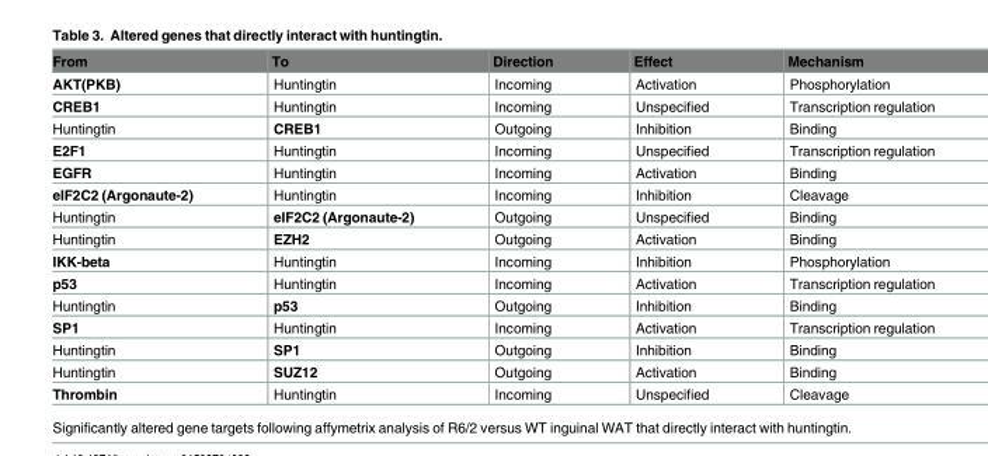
<table><thead><tr><td>From</td><td>To</td><td>Direction</td><td>Effect</td><td>Mechanism</td></tr></thead><tbody><tr><td>AKT(PKB)</td><td>Huntingtin</td><td>Incoming</td><td>Activation</td><td>Phosphorylation</td></tr><tr><td>CREB1</td><td>Huntingtin</td><td>Incoming</td><td>Unspecified</td><td>Transcription regulation</td></tr><tr><td>Huntingtin</td><td>CREB1</td><td>Outgoing</td><td>Inhibition</td><td>Binding</td></tr><tr><td>E2F1</td><td>Huntingtin</td><td>Incoming</td><td>Unspecified</td><td>Transcription regulation</td></tr><tr><td>EGFR</td><td>Huntingtin</td><td>Incoming</td><td>Activation</td><td>Binding</td></tr><tr><td>eIF2C2 (Argonaute-2)</td><td>Huntingtin</td><td>Incoming</td><td>Inhibition</td><td>Cleavage</td></tr><tr><td>Huntingtin</td><td>eIF2C2 (Argonaute-2)</td><td>Outgoing</td><td>Unspecified</td><td>Binding</td></tr><tr><td>Huntingtin</td><td>EZH2</td><td>Outgoing</td><td>Activation</td><td>Binding</td></tr><tr><td>IKK-beta</td><td>Huntingtin</td><td>Incoming</td><td>Inhibition</td><td>Phosphorylation</td></tr><tr><td>p53</td><td>Huntingtin</td><td>Incoming</td><td>Activation</td><td>Transcription regulation</td></tr><tr><td>Huntingtin</td><td>p53</td><td>Outgoing</td><td>Inhibition</td><td>Binding</td></tr><tr><td>SP1</td><td>Huntingtin</td><td>Incoming</td><td>Activation</td><td>Transcription regulation</td></tr><tr><td>Huntingtin</td><td>SP1</td><td>Outgoing</td><td>Inhibition</td><td>Binding</td></tr><tr><td>Huntingtin</td><td>SUZ12</td><td>Outgoing</td><td>Activation</td><td>Binding</td></tr><tr><td>Thrombin</td><td>Huntingtin</td><td>Incoming</td><td>Unspecified</td><td>Cleavage</td></tr></tbody></table>